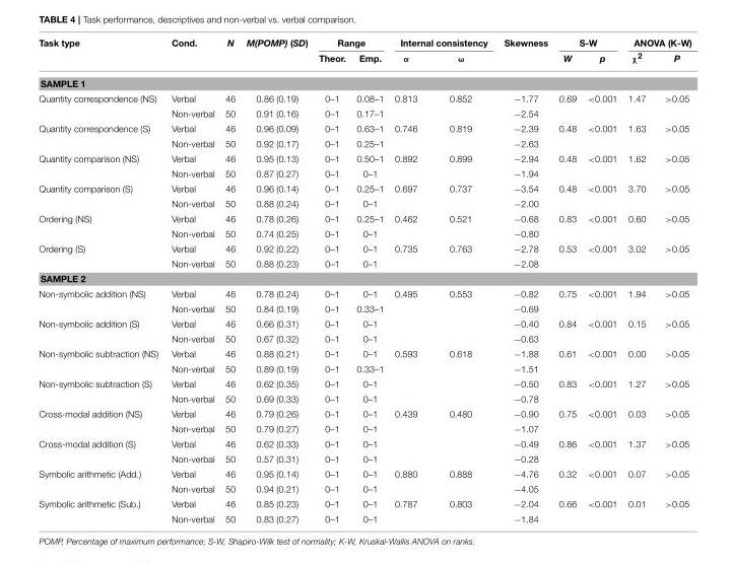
<table><thead><tr><td rowspan="2">Task type</td><td rowspan="2">Cond.</td><td rowspan="2">N</td><td rowspan="2">M(POMP) (SD)</td><td colspan="2">Range</td><td colspan="2">Internal consistency</td><td rowspan="2">Skewness</td><td colspan="2">S-W</td><td colspan="2">ANOVA (K-W)</td></tr><tr><td>Theor.</td><td>Emp.</td><td>α</td><td>ω</td><td>W</td><td>p</td><td>χ<sup>2</sup></td><td>P</td></tr></thead><tbody><tr><td colspan="13">SAMPLE 1</td></tr><tr><td rowspan="2">Quantity correspondence (NS)</td><td>Verbal</td><td>46</td><td>0.86 (0.19)</td><td>0–1</td><td>0.08–1</td><td>0.813</td><td>0.852</td><td>−1.77</td><td>0.69</td><td>&lt;0.001</td><td>1.47</td><td>&gt;0.05</td></tr><tr><td>Non-verbal</td><td>50</td><td>0.91 (0.16)</td><td>0–1</td><td>0.17–1</td><td></td><td></td><td>−2.54</td><td></td><td></td><td></td><td></td></tr><tr><td rowspan="2">Quantity correspondence (S)</td><td>Verbal</td><td>46</td><td>0.96 (0.09)</td><td>0–1</td><td>0.63–1</td><td>0.746</td><td>0.819</td><td>−2.39</td><td>0.48</td><td>&lt;0.001</td><td>1.63</td><td>&gt;0.05</td></tr><tr><td>Non-verbal</td><td>50</td><td>0.92 (0.17)</td><td>0–1</td><td>0.25–1</td><td></td><td></td><td>−2.63</td><td></td><td></td><td></td><td></td></tr><tr><td rowspan="2">Quantity comparison (NS)</td><td>Verbal</td><td>46</td><td>0.95 (0.13)</td><td>0–1</td><td>0.50–1</td><td>0.892</td><td>0.899</td><td>−2.94</td><td>0.48</td><td>&lt;0.001</td><td>1.62</td><td>&gt;0.05</td></tr><tr><td>Non-verbal</td><td>50</td><td>0.87 (0.27)</td><td>0–1</td><td>0–1</td><td></td><td></td><td>−1.94</td><td></td><td></td><td></td><td></td></tr><tr><td rowspan="2">Quantity comparison (S)</td><td>Verbal</td><td>46</td><td>0.96 (0.14)</td><td>0–1</td><td>0.25–1</td><td>0.697</td><td>0.737</td><td>−3.54</td><td>0.48</td><td>&lt;0.001</td><td>3.70</td><td>&gt;0.05</td></tr><tr><td>Non-verbal</td><td>50</td><td>0.88 (0.24)</td><td>0–1</td><td>0–1</td><td></td><td></td><td>−2.00</td><td></td><td></td><td></td><td></td></tr><tr><td rowspan="2">Ordering (NS)</td><td>Verbal</td><td>46</td><td>0.78 (0.26)</td><td>0–1</td><td>0.25–1</td><td>0.462</td><td>0.521</td><td>−0.68</td><td>0.83</td><td>&lt;0.001</td><td>0.60</td><td>&gt;0.05</td></tr><tr><td>Non-verbal</td><td>50</td><td>0.74 (0.25)</td><td>0–1</td><td>0–1</td><td></td><td></td><td>−0.80</td><td></td><td></td><td></td><td></td></tr><tr><td rowspan="2">Ordering (S)</td><td>Verbal</td><td>46</td><td>0.92 (0.22)</td><td>0–1</td><td>0–1</td><td>0.735</td><td>0.763</td><td>−2.78</td><td>0.53</td><td>&lt;0.001</td><td>3.02</td><td>&gt;0.05</td></tr><tr><td>Non-verbal</td><td>50</td><td>0.88 (0.23)</td><td>0–1</td><td>0–1</td><td></td><td></td><td>−2.08</td><td></td><td></td><td></td><td></td></tr><tr><td colspan="13">SAMPLE 2</td></tr><tr><td rowspan="2">Non-symbolic addition (NS)</td><td>Verbal</td><td>46</td><td>0.78 (0.24)</td><td>0–1</td><td>0–1</td><td>0.495</td><td>0.553</td><td>−0.82</td><td>0.75</td><td>&lt;0.001</td><td>1.94</td><td>&gt;0.05</td></tr><tr><td>Non-verbal</td><td>50</td><td>0.84 (0.19)</td><td>0–1</td><td>0.33–1</td><td></td><td></td><td>−0.69</td><td></td><td></td><td></td><td></td></tr><tr><td rowspan="2">Non-symbolic addition (S)</td><td>Verbal</td><td>46</td><td>0.66 (0.31)</td><td>0–1</td><td>0–1</td><td></td><td></td><td>−0.40</td><td>0.84</td><td>&lt;0.001</td><td>0.15</td><td>&gt;0.05</td></tr><tr><td>Non-verbal</td><td>50</td><td>0.67 (0.32)</td><td>0–1</td><td>0–1</td><td></td><td></td><td>−0.63</td><td></td><td></td><td></td><td></td></tr><tr><td rowspan="2">Non-symbolic subtraction (NS)</td><td>Verbal</td><td>46</td><td>0.88 (0.21)</td><td>0–1</td><td>0–1</td><td>0.593</td><td>0.618</td><td>−1.88</td><td>0.61</td><td>&lt;0.001</td><td>0.00</td><td>&gt;0.05</td></tr><tr><td>Non-verbal</td><td>50</td><td>0.89 (0.19)</td><td>0–1</td><td>0.33–1</td><td></td><td></td><td>−1.51</td><td></td><td></td><td></td><td></td></tr><tr><td rowspan="2">Non-symbolic subtraction (S)</td><td>Verbal</td><td>46</td><td>0.62 (0.35)</td><td>0–1</td><td>0–1</td><td></td><td></td><td>−0.50</td><td>0.83</td><td>&lt;0.001</td><td>1.27</td><td>&gt;0.05</td></tr><tr><td>Non-verbal</td><td>50</td><td>0.69 (0.33)</td><td>0–1</td><td>0–1</td><td></td><td></td><td>−0.78</td><td></td><td></td><td></td><td></td></tr><tr><td rowspan="2">Cross-modal addition (NS)</td><td>Verbal</td><td>46</td><td>0.79 (0.26)</td><td>0–1</td><td>0–1</td><td>0.439</td><td>0.480</td><td>−0.90</td><td>0.75</td><td>&lt;0.001</td><td>0.03</td><td>&gt;0.05</td></tr><tr><td>Non-verbal</td><td>50</td><td>0.79 (0.27)</td><td>0–1</td><td>0–1</td><td></td><td></td><td>−1.07</td><td></td><td></td><td></td><td></td></tr><tr><td rowspan="2">Cross-modal addition (S)</td><td>Verbal</td><td>46</td><td>0.62 (0.33)</td><td>0–1</td><td>0–1</td><td></td><td></td><td>−0.49</td><td>0.86</td><td>&lt;0.001</td><td>1.37</td><td>&gt;0.05</td></tr><tr><td>Non-verbal</td><td>50</td><td>0.57 (0.31)</td><td>0–1</td><td>0–1</td><td></td><td></td><td>−0.28</td><td></td><td></td><td></td><td></td></tr><tr><td rowspan="2">Symbolic arithmetic (Add.)</td><td>Verbal</td><td>46</td><td>0.95 (0.14)</td><td>0–1</td><td>0–1</td><td>0.880</td><td>0.888</td><td>−4.76</td><td>0.32</td><td>&lt;0.001</td><td>0.07</td><td>&gt;0.05</td></tr><tr><td>Non-verbal</td><td>50</td><td>0.94 (0.21)</td><td>0–1</td><td>0–1</td><td></td><td></td><td>−4.05</td><td></td><td></td><td></td><td></td></tr><tr><td rowspan="2">Symbolic arithmetic (Sub.)</td><td>Verbal</td><td>46</td><td>0.85 (0.23)</td><td>0–1</td><td>0–1</td><td>0.787</td><td>0.803</td><td>−2.04</td><td>0.66</td><td>&lt;0.001</td><td>0.01</td><td>&gt;0.05</td></tr><tr><td>Non-verbal</td><td>50</td><td>0.83 (0.27)</td><td>0–1</td><td>0–1</td><td></td><td></td><td>−1.84</td><td></td><td></td><td></td><td></td></tr></tbody></table>